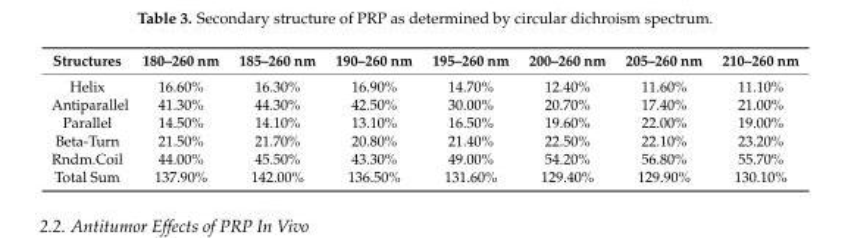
<table><thead><tr><td>Structures</td><td>180–260 nm</td><td>185–260 nm</td><td>190–260 nm</td><td>195–260 nm</td><td>200–260 nm</td><td>205–260 nm</td><td>210–260 nm</td></tr></thead><tbody><tr><td>Helix</td><td>16.60%</td><td>16.30%</td><td>16.90%</td><td>14.70%</td><td>12.40%</td><td>11.60%</td><td>11.10%</td></tr><tr><td>Antiparallel</td><td>41.30%</td><td>44.30%</td><td>42.50%</td><td>30.00%</td><td>20.70%</td><td>17.40%</td><td>21.00%</td></tr><tr><td>Parallel</td><td>14.50%</td><td>14.10%</td><td>13.10%</td><td>16.50%</td><td>19.60%</td><td>22.00%</td><td>19.00%</td></tr><tr><td>Beta-Turn</td><td>21.50%</td><td>21.70%</td><td>20.80%</td><td>21.40%</td><td>22.50%</td><td>22.10%</td><td>23.20%</td></tr><tr><td>Rndm.Coil</td><td>44.00%</td><td>45.50%</td><td>43.30%</td><td>49.00%</td><td>54.20%</td><td>56.80%</td><td>55.70%</td></tr><tr><td>Total Sum</td><td>137.90%</td><td>142.00%</td><td>136.50%</td><td>131.60%</td><td>129.40%</td><td>129.90%</td><td>130.10%</td></tr></tbody></table>